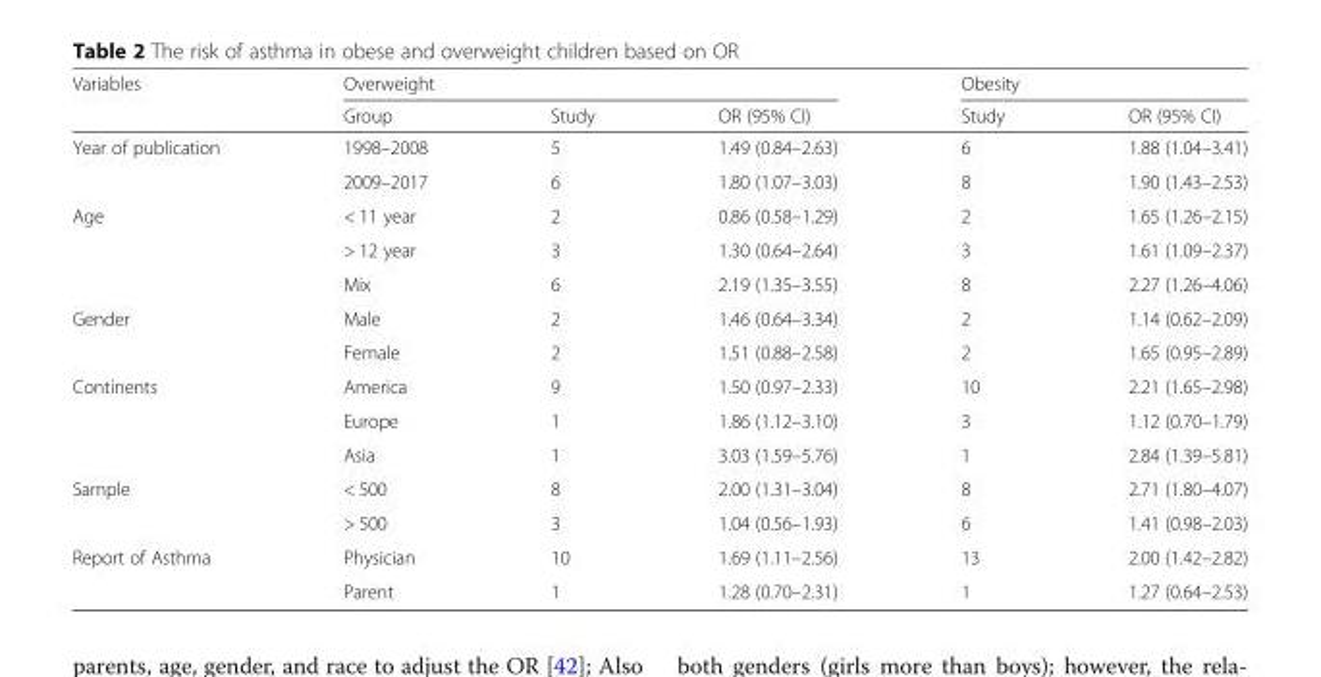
<table><thead><tr><td rowspan="2">Variables</td><td colspan="3">Overweight</td><td colspan="2">Obesity</td></tr><tr><td>Group</td><td>Study</td><td>OR (95% CI)</td><td>Study</td><td>OR (95% CI)</td></tr></thead><tbody><tr><td rowspan="2">Year of publication</td><td>1998–2008</td><td>5</td><td>1.49 (0.84–2.63)</td><td>6</td><td>1.88 (1.04–3.41)</td></tr><tr><td>2009–2017</td><td>6</td><td>1.80 (1.07–3.03)</td><td>8</td><td>1.90 (1.43–2.53)</td></tr><tr><td rowspan="3">Age</td><td>&lt; 11 year</td><td>2</td><td>0.86 (0.58–1.29)</td><td>2</td><td>1.65 (1.26–2.15)</td></tr><tr><td>&gt; 12 year</td><td>3</td><td>1.30 (0.64–2.64)</td><td>3</td><td>1.61 (1.09–2.37)</td></tr><tr><td>Mix</td><td>6</td><td>2.19 (1.35–3.55)</td><td>8</td><td>2.27 (1.26–4.06)</td></tr><tr><td rowspan="2">Gender</td><td>Male</td><td>2</td><td>1.46 (0.64–3.34)</td><td>2</td><td>1.14 (0.62–2.09)</td></tr><tr><td>Female</td><td>2</td><td>1.51 (0.88–2.58)</td><td>2</td><td>1.65 (0.95–2.89)</td></tr><tr><td rowspan="3">Continents</td><td>America</td><td>9</td><td>1.50 (0.97–2.33)</td><td>10</td><td>2.21 (1.65–2.98)</td></tr><tr><td>Europe</td><td>1</td><td>1.86 (1.12–3.10)</td><td>3</td><td>1.12 (0.70–1.79)</td></tr><tr><td>Asia</td><td>1</td><td>3.03 (1.59–5.76)</td><td>1</td><td>2.84 (1.39–5.81)</td></tr><tr><td rowspan="2">Sample</td><td>&lt; 500</td><td>8</td><td>2.00 (1.31–3.04)</td><td>8</td><td>2.71 (1.80–4.07)</td></tr><tr><td>&gt; 500</td><td>3</td><td>1.04 (0.56–1.93)</td><td>6</td><td>1.41 (0.98–2.03)</td></tr><tr><td rowspan="2">Report of Asthma</td><td>Physician</td><td>10</td><td>1.69 (1.11–2.56)</td><td>13</td><td>2.00 (1.42–2.82)</td></tr><tr><td>Parent</td><td>1</td><td>1.28 (0.70–2.31)</td><td>1</td><td>1.27 (0.64–2.53)</td></tr></tbody></table>